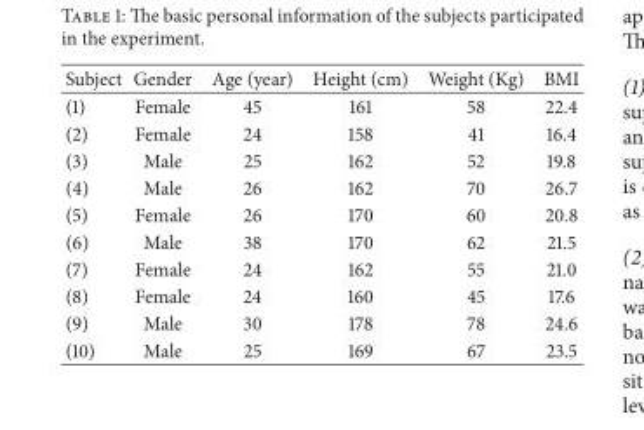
<table><thead><tr><td>Subject</td><td>Gender</td><td>Age (year)</td><td>Height (cm)</td><td>Weight (Kg)</td><td>BMI</td></tr></thead><tbody><tr><td>(1)</td><td>Female</td><td>45</td><td>161</td><td>58</td><td>22.4</td></tr><tr><td>(2)</td><td>Female</td><td>24</td><td>158</td><td>41</td><td>16.4</td></tr><tr><td>(3)</td><td>Male</td><td>25</td><td>162</td><td>52</td><td>19.8</td></tr><tr><td>(4)</td><td>Male</td><td>26</td><td>162</td><td>70</td><td>26.7</td></tr><tr><td>(5)</td><td>Female</td><td>26</td><td>170</td><td>60</td><td>20.8</td></tr><tr><td>(6)</td><td>Male</td><td>38</td><td>170</td><td>62</td><td>21.5</td></tr><tr><td>(7)</td><td>Female</td><td>24</td><td>162</td><td>55</td><td>21.0</td></tr><tr><td>(8)</td><td>Female</td><td>24</td><td>160</td><td>45</td><td>17.6</td></tr><tr><td>(9)</td><td>Male</td><td>30</td><td>178</td><td>78</td><td>24.6</td></tr><tr><td>(10)</td><td>Male</td><td>25</td><td>169</td><td>67</td><td>23.5</td></tr></tbody></table>